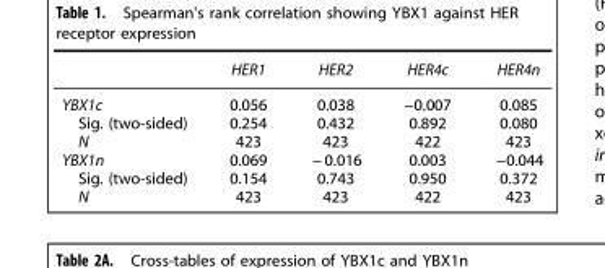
<table><thead><tr><td></td><td>HER1</td><td>HER2</td><td>HER4c</td><td>HER4n</td></tr></thead><tbody><tr><td>YBX1c</td><td>0.056</td><td>0.038</td><td>−0.007</td><td>0.085</td></tr><tr><td>Sig. (two-sided)</td><td>0.254</td><td>0.432</td><td>0.892</td><td>0.080</td></tr><tr><td>N</td><td>423</td><td>423</td><td>422</td><td>423</td></tr><tr><td>YBX1n</td><td>0.069</td><td>− 0.016</td><td>0.003</td><td>−0.044</td></tr><tr><td>Sig. (two-sided)</td><td>0.154</td><td>0.743</td><td>0.950</td><td>0.372</td></tr><tr><td>N</td><td>423</td><td>423</td><td>422</td><td>423</td></tr></tbody></table>